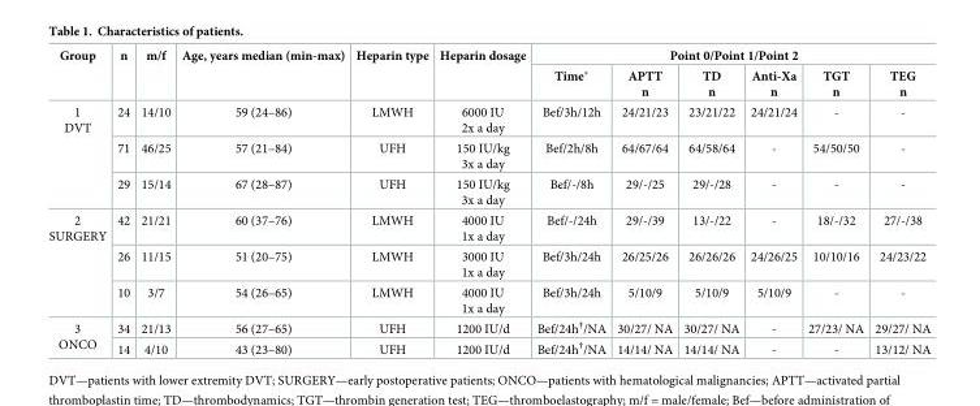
<table><thead><tr><td rowspan="2">Group</td><td rowspan="2">n</td><td rowspan="2">m/f</td><td rowspan="2">Age, years median (min-max)</td><td rowspan="2">Heparin type</td><td rowspan="2">Heparin dosage</td><td colspan="6">Point 0/Point 1/Point 2</td></tr><tr><td>Time*</td><td>APTT n</td><td>TD n</td><td>Anti-Xa n</td><td>TGT n</td><td>TEG n</td></tr></thead><tbody><tr><td rowspan="3">1 DVT</td><td>24</td><td>14/10</td><td>59 (24–86)</td><td>LMWH</td><td>6000 IU 2x a day</td><td>Bef/3h/12h</td><td>24/21/23</td><td>23/21/22</td><td>24/21/24</td><td>-</td><td>-</td></tr><tr><td>71</td><td>46/25</td><td>57 (21–84)</td><td>UFH</td><td>150 IU/kg 3x a day</td><td>Bef/2h/8h</td><td>64/67/64</td><td>64/58/64</td><td>-</td><td>54/50/50</td><td>-</td></tr><tr><td>29</td><td>15/14</td><td>67 (28–87)</td><td>UFH</td><td>150 IU/kg 3x a day</td><td>Bef/-/8h</td><td>29/-/25</td><td>29/-/28</td><td>-</td><td>-</td><td>-</td></tr><tr><td rowspan="3">2 SURGERY</td><td>42</td><td>21/21</td><td>60 (37–76)</td><td>LMWH</td><td>4000 IU 1x a day</td><td>Bef/-/24h</td><td>29/-/39</td><td>13/-/22</td><td>-</td><td>18/-/32</td><td>27/-/38</td></tr><tr><td>26</td><td>11/15</td><td>51 (20–75)</td><td>LMWH</td><td>3000 IU 1x a day</td><td>Bef/3h/24h</td><td>26/25/26</td><td>26/26/26</td><td>24/26/25</td><td>10/10/16</td><td>24/23/22</td></tr><tr><td>10</td><td>3/7</td><td>54 (26–65)</td><td>LMWH</td><td>4000 IU 1x a day</td><td>Bef/3h/24h</td><td>5/10/9</td><td>5/10/9</td><td>5/10/9</td><td>-</td><td>-</td></tr><tr><td rowspan="2">3 ONCO</td><td>34</td><td>21/13</td><td>56 (27–65)</td><td>UFH</td><td>1200 IU/d</td><td>Bef/24h<sup>†</sup>/NA</td><td>30/27/ NA</td><td>30/27/ NA</td><td>-</td><td>27/23/ NA</td><td>29/27/ NA</td></tr><tr><td>14</td><td>4/10</td><td>43 (23–80)</td><td>UFH</td><td>1200 IU/d</td><td>Bef/24h<sup>†</sup>/NA</td><td>14/14/ NA</td><td>14/14/ NA</td><td>-</td><td>-</td><td>13/12/ NA</td></tr></tbody></table>